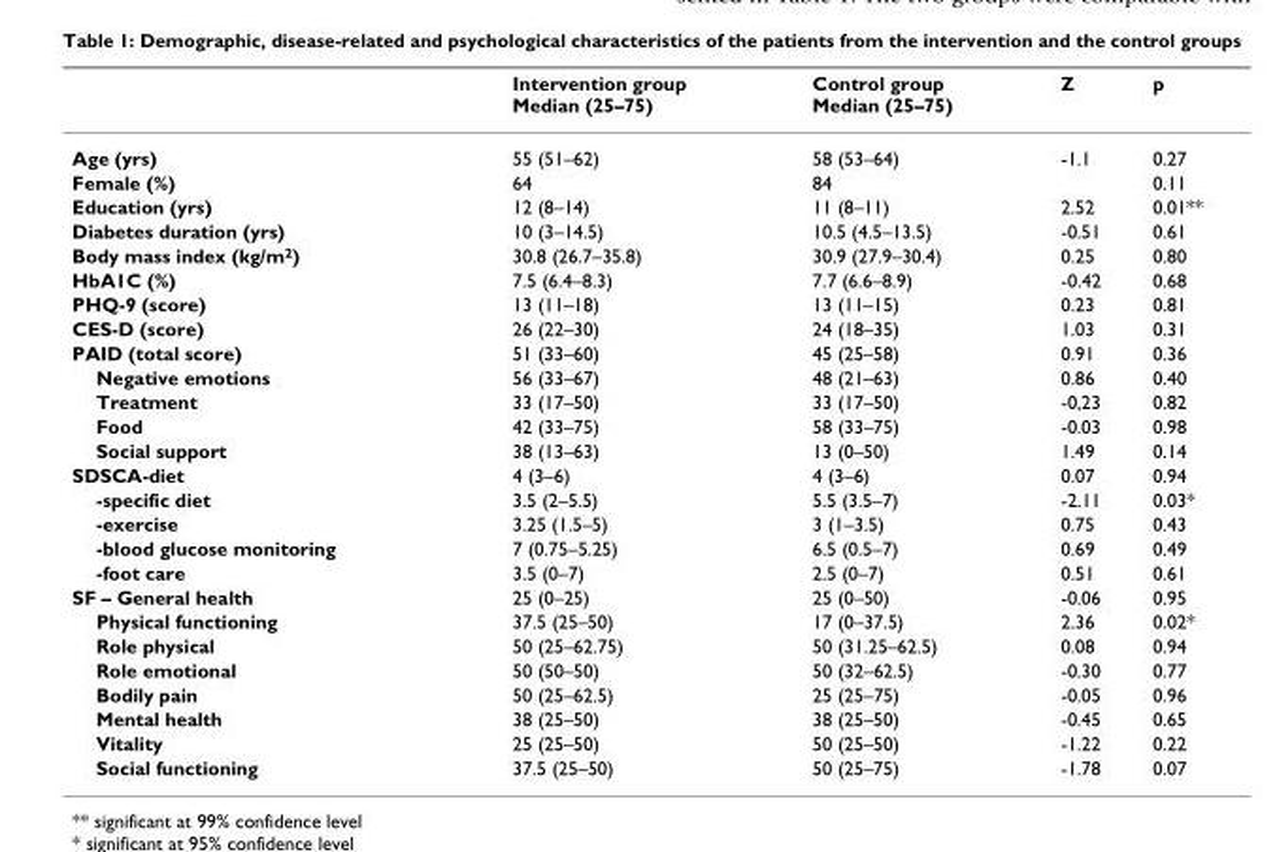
<table><thead><tr><td></td><td>Intervention group Median (25–75)</td><td>Control group Median (25–75)</td><td>Z</td><td>p</td></tr></thead><tbody><tr><td>Age (yrs)</td><td>55 (51–62)</td><td>58 (53–64)</td><td>-1.1</td><td>0.27</td></tr><tr><td>Female (%)</td><td>64</td><td>84</td><td></td><td>0.11</td></tr><tr><td>Education (yrs)</td><td>12 (8–14)</td><td>11 (8–11)</td><td>2.52</td><td>0.01**</td></tr><tr><td>Diabetes duration (yrs)</td><td>10 (3–14.5)</td><td>10.5 (4.5–13.5)</td><td>-0.51</td><td>0.61</td></tr><tr><td>Body mass index (kg/m<sup>2</sup>)</td><td>30.8 (26.7–35.8)</td><td>30.9 (27.9–30.4)</td><td>0.25</td><td>0.80</td></tr><tr><td>HbA1C (%)</td><td>7.5 (6.4–8.3)</td><td>7.7 (6.6–8.9)</td><td>-0.42</td><td>0.68</td></tr><tr><td>PHQ-9 (score)</td><td>13 (11–18)</td><td>13 (11–15)</td><td>0.23</td><td>0.81</td></tr><tr><td>CES-D (score)</td><td>26 (22–30)</td><td>24 (18–35)</td><td>1.03</td><td>0.31</td></tr><tr><td>PAID (total score)</td><td>51 (33–60)</td><td>45 (25–58)</td><td>0.91</td><td>0.36</td></tr><tr><td>Negative emotions</td><td>56 (33–67)</td><td>48 (21–63)</td><td>0.86</td><td>0.40</td></tr><tr><td>Treatment</td><td>33 (17–50)</td><td>33 (17–50)</td><td>-0,23</td><td>0.82</td></tr><tr><td>Food</td><td>42 (33–75)</td><td>58 (33–75)</td><td>-0.03</td><td>0.98</td></tr><tr><td>Social support</td><td>38 (13–63)</td><td>13 (0–50)</td><td>1.49</td><td>0.14</td></tr><tr><td>SDSCA-diet</td><td>4 (3–6)</td><td>4 (3–6)</td><td>0.07</td><td>0.94</td></tr><tr><td>-specific diet</td><td>3.5 (2–5.5)</td><td>5.5 (3.5–7)</td><td>-2.11</td><td>0.03*</td></tr><tr><td>-exercise</td><td>3.25 (1.5–5)</td><td>3 (1–3.5)</td><td>0.75</td><td>0.43</td></tr><tr><td>-blood glucose monitoring</td><td>7 (0.75–5.25)</td><td>6.5 (0.5–7)</td><td>0.69</td><td>0.49</td></tr><tr><td>-foot care</td><td>3.5 (0–7)</td><td>2.5 (0–7)</td><td>0.51</td><td>0.61</td></tr><tr><td>SF – General health</td><td>25 (0–25)</td><td>25 (0–50)</td><td>-0.06</td><td>0.95</td></tr><tr><td>Physical functioning</td><td>37.5 (25–50)</td><td>17 (0–37.5)</td><td>2.36</td><td>0.02*</td></tr><tr><td>Role physical</td><td>50 (25–62.75)</td><td>50 (31.25–62.5)</td><td>0.08</td><td>0.94</td></tr><tr><td>Role emotional</td><td>50 (50–50)</td><td>50 (32–62.5)</td><td>-0.30</td><td>0.77</td></tr><tr><td>Bodily pain</td><td>50 (25–62.5)</td><td>25 (25–75)</td><td>-0.05</td><td>0.96</td></tr><tr><td>Mental health</td><td>38 (25–50)</td><td>38 (25–50)</td><td>-0.45</td><td>0.65</td></tr><tr><td>Vitality</td><td>25 (25–50)</td><td>50 (25–50)</td><td>-1.22</td><td>0.22</td></tr><tr><td>Social functioning</td><td>37.5 (25–50)</td><td>50 (25–75)</td><td>-1.78</td><td>0.07</td></tr></tbody></table>